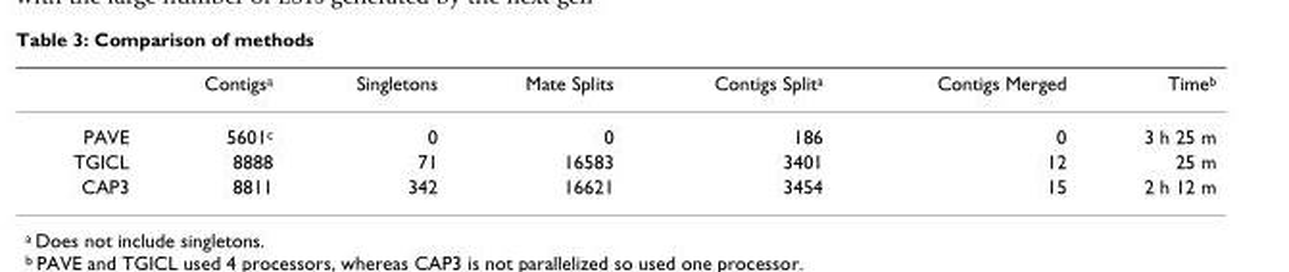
<table><thead><tr><td></td><td>Contigs<sup>a</sup></td><td>Singletons</td><td>Mate Splits</td><td>Contigs Split<sup>a</sup></td><td>Contigs Merged</td><td>Time<sup>b</sup></td></tr></thead><tbody><tr><td>PAVE</td><td>5601<sup>c</sup></td><td>0</td><td>0</td><td>186</td><td>0</td><td>3 h 25 m</td></tr><tr><td>TGICL</td><td>8888</td><td>71</td><td>16583</td><td>3401</td><td>12</td><td>25 m</td></tr><tr><td>CAP3</td><td>8811</td><td>342</td><td>16621</td><td>3454</td><td>15</td><td>2 h 12 m</td></tr></tbody></table>